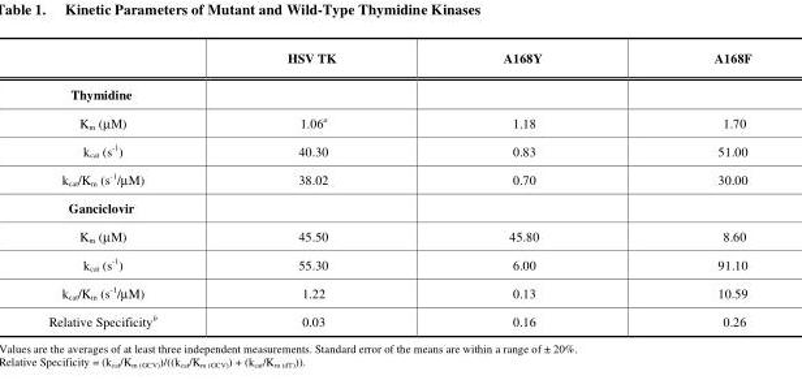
<table><thead><tr><td></td><td>HSV TK</td><td>A168Y</td><td>A168F</td></tr></thead><tbody><tr><td colspan="4">Thymidine</td></tr><tr><td>K<sub>m</sub> (μM)</td><td>1.06<sup>a</sup></td><td>1.18</td><td>1.70</td></tr><tr><td>k<sub>cat</sub> (s<sup>-1</sup>)</td><td>40.30</td><td>0.83</td><td>51.00</td></tr><tr><td>k<sub>cat</sub>/K<sub>m</sub> (s<sup>-1</sup>/μM)</td><td>38.02</td><td>0.70</td><td>30.00</td></tr><tr><td colspan="4">Ganciclovir</td></tr><tr><td>K<sub>m</sub> (μM)</td><td>45.50</td><td>45.80</td><td>8.60</td></tr><tr><td>k<sub>cat</sub> (s<sup>-1</sup>)</td><td>55.30</td><td>6.00</td><td>91.10</td></tr><tr><td>k<sub>cat</sub>/K<sub>m</sub> (s<sup>-1</sup>/μM)</td><td>1.22</td><td>0.13</td><td>10.59</td></tr><tr><td>Relative Specificity<sup>b</sup></td><td>0.03</td><td>0.16</td><td>0.26</td></tr></tbody></table>